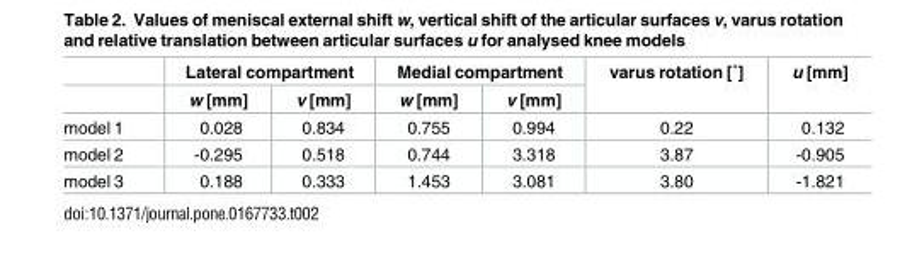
<table><thead><tr><td rowspan="2"></td><td colspan="2">Lateral compartment</td><td colspan="2">Medial compartment</td><td rowspan="2">varus rotation [˚]</td><td rowspan="2">u [mm]</td></tr><tr><td>w [mm]</td><td>v [mm]</td><td>w [mm]</td><td>v [mm]</td></tr></thead><tbody><tr><td>model 1</td><td>0.028</td><td>0.834</td><td>0.755</td><td>0.994</td><td>0.22</td><td>0.132</td></tr><tr><td>model 2</td><td>-0.295</td><td>0.518</td><td>0.744</td><td>3.318</td><td>3.87</td><td>-0.905</td></tr><tr><td>model 3</td><td>0.188</td><td>0.333</td><td>1.453</td><td>3.081</td><td>3.80</td><td>-1.821</td></tr></tbody></table>